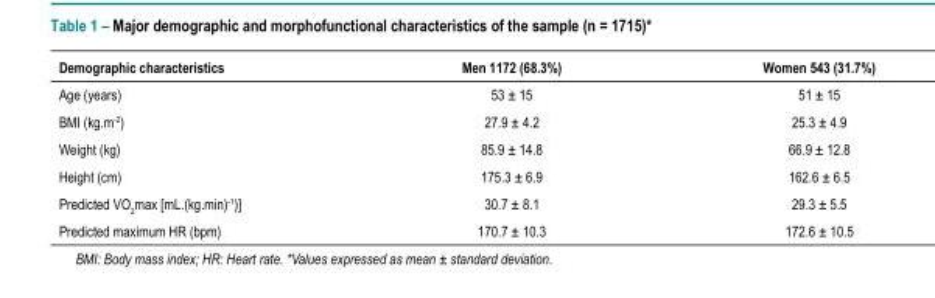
<table><thead><tr><td>Demographic characteristics</td><td>Men 1172 (68.3%)</td><td>Women 543 (31.7%)</td></tr></thead><tbody><tr><td>Age (years)</td><td>53 ± 15</td><td>51 ± 15</td></tr><tr><td>BMI (kg.m<sup>-2</sup>)</td><td>27.9 ± 4.2</td><td>25.3 ± 4.9</td></tr><tr><td>Weight (kg)</td><td>85.9 ± 14.8</td><td>66.9 ± 12.8</td></tr><tr><td>Height (cm)</td><td>175.3 ± 6.9</td><td>162.6 ± 6.5</td></tr><tr><td>Predicted VO2max [mL.(kg.min)-1)]</td><td>30.7 ± 8.1</td><td>29.3 ± 5.5</td></tr><tr><td>Predicted maximum HR (bpm)</td><td>170.7 ± 10.3</td><td>172.6 ± 10.5</td></tr></tbody></table>